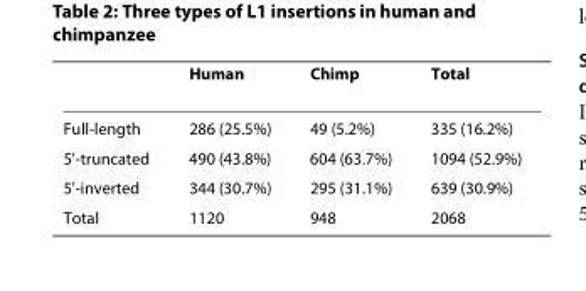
<table><thead><tr><td></td><td>Human</td><td>Chimp</td><td>Total</td></tr></thead><tbody><tr><td>Full-length</td><td>286 (25.5%)</td><td>49 (5.2%)</td><td>335 (16.2%)</td></tr><tr><td>5&#x27;-truncated</td><td>490 (43.8%)</td><td>604 (63.7%)</td><td>1094 (52.9%)</td></tr><tr><td>5&#x27;-inverted</td><td>344 (30.7%)</td><td>295 (31.1%)</td><td>639 (30.9%)</td></tr><tr><td>Total</td><td>1120</td><td>948</td><td>2068</td></tr></tbody></table>